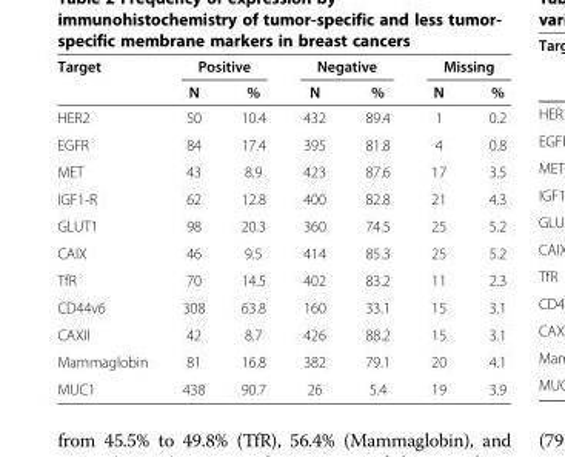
<table><thead><tr><td rowspan="2">Target</td><td colspan="2">Positive</td><td colspan="2">Negative</td><td colspan="2">Missing</td></tr><tr><td>N</td><td>%</td><td>N</td><td>%</td><td>N</td><td>%</td></tr></thead><tbody><tr><td>HER2</td><td>50</td><td>10.4</td><td>432</td><td>89.4</td><td>1</td><td>0.2</td></tr><tr><td>EGFR</td><td>84</td><td>17.4</td><td>395</td><td>81.8</td><td>4</td><td>0.8</td></tr><tr><td>MET</td><td>43</td><td>8.9</td><td>423</td><td>87.6</td><td>17</td><td>3.5</td></tr><tr><td>IGF1-R</td><td>62</td><td>12.8</td><td>400</td><td>82.8</td><td>21</td><td>4.3</td></tr><tr><td>GLUT1</td><td>98</td><td>20.3</td><td>360</td><td>74.5</td><td>25</td><td>5.2</td></tr><tr><td>CAIX</td><td>46</td><td>9.5</td><td>414</td><td>85.3</td><td>25</td><td>5.2</td></tr><tr><td>TfR</td><td>70</td><td>14.5</td><td>402</td><td>83.2</td><td>11</td><td>2.3</td></tr><tr><td>CD44v6</td><td>308</td><td>63.8</td><td>160</td><td>33.1</td><td>15</td><td>3.1</td></tr><tr><td>CAXII</td><td>42</td><td>8.7</td><td>426</td><td>88.2</td><td>15</td><td>3.1</td></tr><tr><td>Mammaglobin</td><td>81</td><td>16.8</td><td>382</td><td>79.1</td><td>20</td><td>4.1</td></tr><tr><td>MUC1</td><td>438</td><td>90.7</td><td>26</td><td>5.4</td><td>19</td><td>3.9</td></tr></tbody></table>